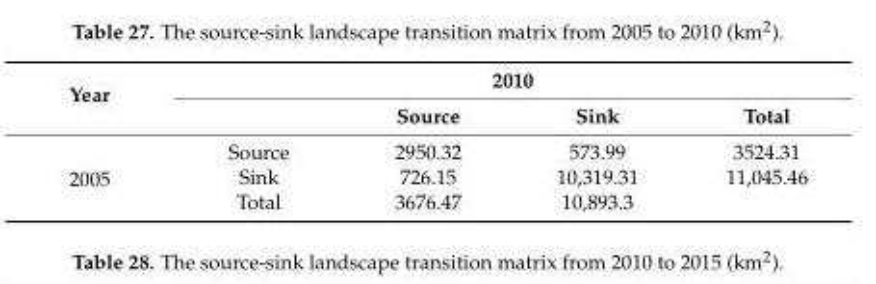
<table><thead><tr><td rowspan="2">Year</td><td colspan="4">2010</td></tr><tr><td></td><td>Source</td><td>Sink</td><td>Total</td></tr></thead><tbody><tr><td rowspan="3">2005</td><td>Source</td><td>2950.32</td><td>573.99</td><td>3524.31</td></tr><tr><td>Sink</td><td>726.15</td><td>10,319.31</td><td>11,045.46</td></tr><tr><td>Total</td><td>3676.47</td><td>10,893.3</td><td></td></tr></tbody></table>